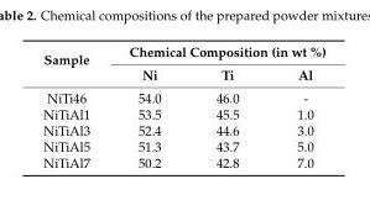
<table><thead><tr><td rowspan="2">Sample</td><td colspan="3">Chemical Composition (in wt %)</td></tr><tr><td>Ni</td><td>Ti</td><td>Al</td></tr></thead><tbody><tr><td>NiTi46</td><td>54.0</td><td>46.0</td><td>-</td></tr><tr><td>NiTiAl1</td><td>53.5</td><td>45.5</td><td>1.0</td></tr><tr><td>NiTiAl3</td><td>52.4</td><td>44.6</td><td>3.0</td></tr><tr><td>NiTiAl5</td><td>51.3</td><td>43.7</td><td>5.0</td></tr><tr><td>NiTiAl7</td><td>50.2</td><td>42.8</td><td>7.0</td></tr></tbody></table>